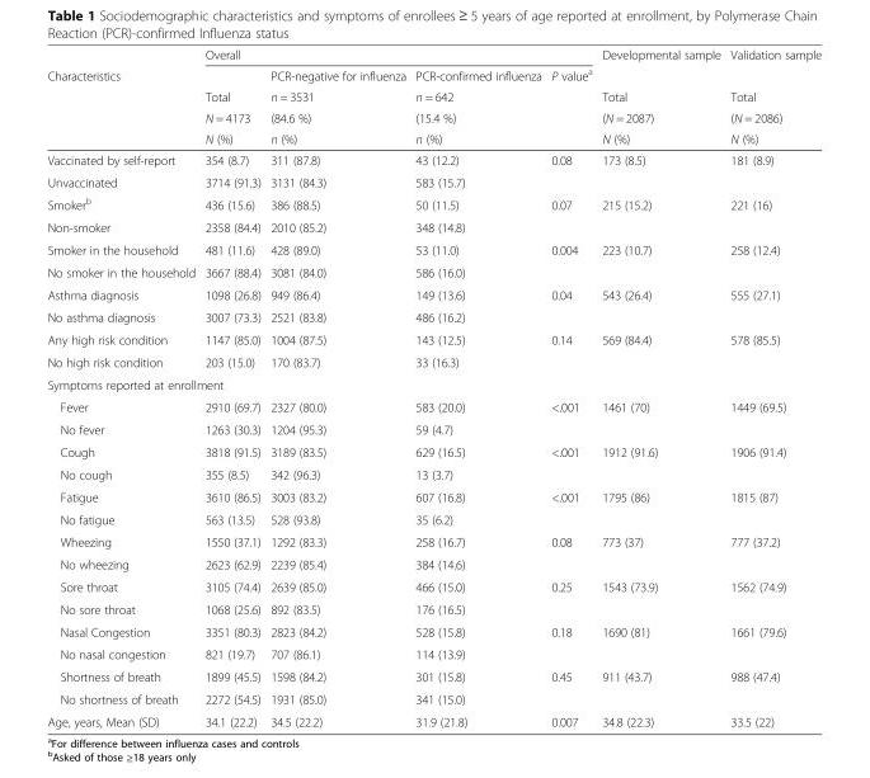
<table><thead><tr><td rowspan="5">Characteristics</td><td colspan="4">Overall</td><td rowspan="5">Developmental sample Total (N = 2087) N (%)</td><td rowspan="5">Validation sample Total (N = 2086) N (%)</td></tr><tr><td rowspan="4">Total N = 4173 N (%)</td><td rowspan="4">PCR-negative for influenza n = 3531 (84.6 %) n (%)</td><td rowspan="4">PCR-confirmed influenza n = 642 (15.4 %) n (%)</td><td rowspan="4">P value<sup>a</sup></td></tr><tr></tr><tr></tr><tr></tr></thead><tbody><tr><td>Vaccinated by self-report</td><td>354 (8.7)</td><td>311 (87.8)</td><td>43 (12.2)</td><td>0.08</td><td>173 (8.5)</td><td>181 (8.9)</td></tr><tr><td>Unvaccinated</td><td>3714 (91.3)</td><td>3131 (84.3)</td><td>583 (15.7)</td><td></td><td></td><td></td></tr><tr><td>Smoker<sup>b</sup></td><td>436 (15.6)</td><td>386 (88.5)</td><td>50 (11.5)</td><td>0.07</td><td>215 (15.2)</td><td>221 (16)</td></tr><tr><td>Non-smoker</td><td>2358 (84.4)</td><td>2010 (85.2)</td><td>348 (14.8)</td><td></td><td></td><td></td></tr><tr><td>Smoker in the household</td><td>481 (11.6)</td><td>428 (89.0)</td><td>53 (11.0)</td><td>0.004</td><td>223 (10.7)</td><td>258 (12.4)</td></tr><tr><td>No smoker in the household</td><td>3667 (88.4)</td><td>3081 (84.0)</td><td>586 (16.0)</td><td></td><td></td><td></td></tr><tr><td>Asthma diagnosis</td><td>1098 (26.8)</td><td>949 (86.4)</td><td>149 (13.6)</td><td>0.04</td><td>543 (26.4)</td><td>555 (27.1)</td></tr><tr><td>No asthma diagnosis</td><td>3007 (73.3)</td><td>2521 (83.8)</td><td>486 (16.2)</td><td></td><td></td><td></td></tr><tr><td>Any high risk condition</td><td>1147 (85.0)</td><td>1004 (87.5)</td><td>143 (12.5)</td><td>0.14</td><td>569 (84.4)</td><td>578 (85.5)</td></tr><tr><td>No high risk condition</td><td>203 (15.0)</td><td>170 (83.7)</td><td>33 (16.3)</td><td></td><td></td><td></td></tr><tr><td colspan="7">Symptoms reported at enrollment</td></tr><tr><td>Fever</td><td>2910 (69.7)</td><td>2327 (80.0)</td><td>583 (20.0)</td><td>&lt;.001</td><td>1461 (70)</td><td>1449 (69.5)</td></tr><tr><td>No fever</td><td>1263 (30.3)</td><td>1204 (95.3)</td><td>59 (4.7)</td><td></td><td></td><td></td></tr><tr><td>Cough</td><td>3818 (91.5)</td><td>3189 (83.5)</td><td>629 (16.5)</td><td>&lt;.001</td><td>1912 (91.6)</td><td>1906 (91.4)</td></tr><tr><td>No cough</td><td>355 (8.5)</td><td>342 (96.3)</td><td>13 (3.7)</td><td></td><td></td><td></td></tr><tr><td>Fatigue</td><td>3610 (86.5)</td><td>3003 (83.2)</td><td>607 (16.8)</td><td>&lt;.001</td><td>1795 (86)</td><td>1815 (87)</td></tr><tr><td>No fatigue</td><td>563 (13.5)</td><td>528 (93.8)</td><td>35 (6.2)</td><td></td><td></td><td></td></tr><tr><td>Wheezing</td><td>1550 (37.1)</td><td>1292 (83.3)</td><td>258 (16.7)</td><td>0.08</td><td>773 (37)</td><td>777 (37.2)</td></tr><tr><td>No wheezing</td><td>2623 (62.9)</td><td>2239 (85.4)</td><td>384 (14.6)</td><td></td><td></td><td></td></tr><tr><td>Sore throat</td><td>3105 (74.4)</td><td>2639 (85.0)</td><td>466 (15.0)</td><td>0.25</td><td>1543 (73.9)</td><td>1562 (74.9)</td></tr><tr><td>No sore throat</td><td>1068 (25.6)</td><td>892 (83.5)</td><td>176 (16.5)</td><td></td><td></td><td></td></tr><tr><td>Nasal Congestion</td><td>3351 (80.3)</td><td>2823 (84.2)</td><td>528 (15.8)</td><td>0.18</td><td>1690 (81)</td><td>1661 (79.6)</td></tr><tr><td>No nasal congestion</td><td>821 (19.7)</td><td>707 (86.1)</td><td>114 (13.9)</td><td></td><td></td><td></td></tr><tr><td>Shortness of breath</td><td>1899 (45.5)</td><td>1598 (84.2)</td><td>301 (15.8)</td><td>0.45</td><td>911 (43.7)</td><td>988 (47.4)</td></tr><tr><td>No shortness of breath</td><td>2272 (54.5)</td><td>1931 (85.0)</td><td>341 (15.0)</td><td></td><td></td><td></td></tr><tr><td>Age, years, Mean (SD)</td><td>34.1 (22.2)</td><td>34.5 (22.2)</td><td>31.9 (21.8)</td><td>0.007</td><td>34.8 (22.3)</td><td>33.5 (22)</td></tr></tbody></table>